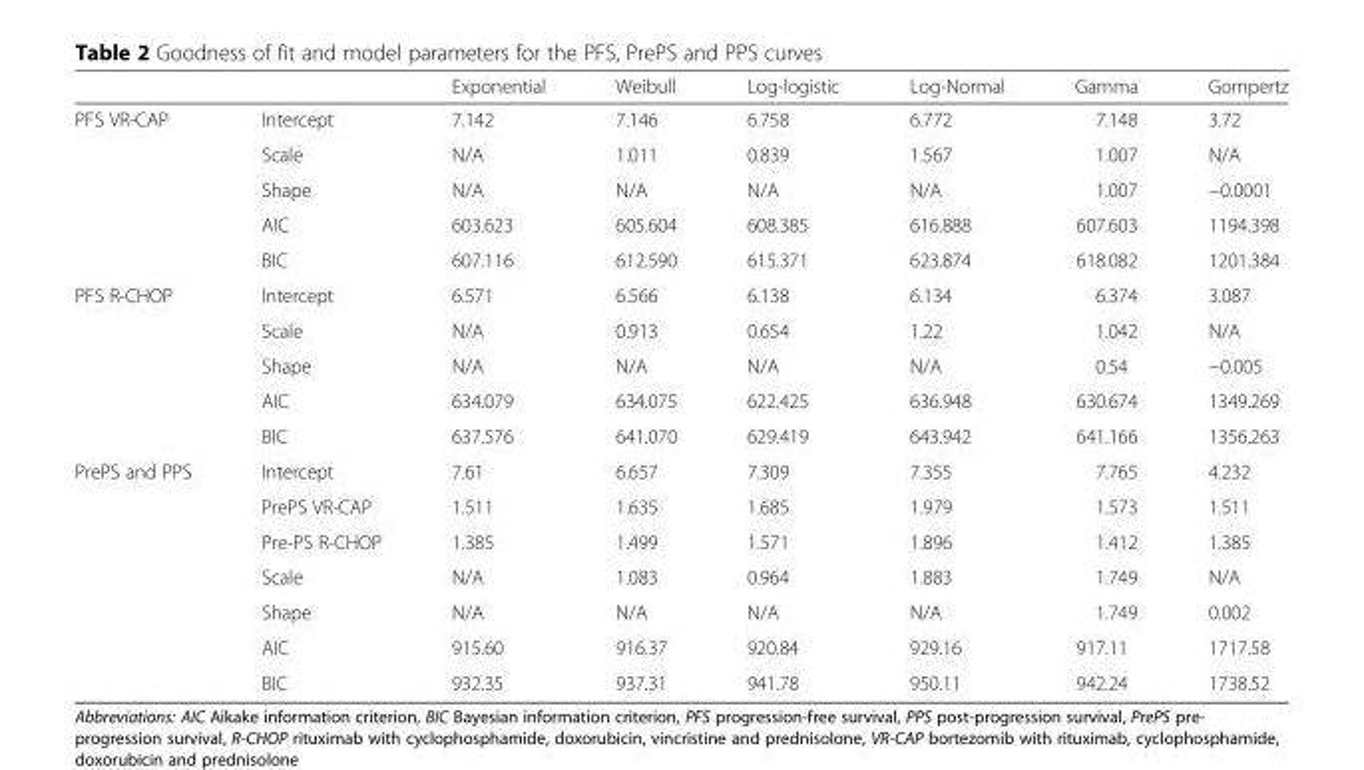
<table><thead><tr><td></td><td></td><td>Exponential</td><td>Weibull</td><td>Log-logistic</td><td>Log-Normal</td><td>Gamma</td><td>Gompertz</td></tr></thead><tbody><tr><td rowspan="5">PFS VR-CAP</td><td>Intercept</td><td>7.142</td><td>7.146</td><td>6.758</td><td>6.772</td><td>7.148</td><td>3.72</td></tr><tr><td>Scale</td><td>N/A</td><td>1.011</td><td>0.839</td><td>1.567</td><td>1.007</td><td>N/A</td></tr><tr><td>Shape</td><td>N/A</td><td>N/A</td><td>N/A</td><td>N/A</td><td>1.007</td><td>−0.0001</td></tr><tr><td>AIC</td><td>603.623</td><td>605.604</td><td>608.385</td><td>616.888</td><td>607.603</td><td>1194.398</td></tr><tr><td>BIC</td><td>607.116</td><td>612.590</td><td>615.371</td><td>623.874</td><td>618.082</td><td>1201.384</td></tr><tr><td rowspan="5">PFS R-CHOP</td><td>Intercept</td><td>6.571</td><td>6.566</td><td>6.138</td><td>6.134</td><td>6.374</td><td>3.087</td></tr><tr><td>Scale</td><td>N/A</td><td>0.913</td><td>0.654</td><td>1.22</td><td>1.042</td><td>N/A</td></tr><tr><td>Shape</td><td>N/A</td><td>N/A</td><td>N/A</td><td>N/A</td><td>0.54</td><td>−0.005</td></tr><tr><td>AIC</td><td>634.079</td><td>634.075</td><td>622.425</td><td>636.948</td><td>630.674</td><td>1349.269</td></tr><tr><td>BIC</td><td>637.576</td><td>641.070</td><td>629.419</td><td>643.942</td><td>641.166</td><td>1356.263</td></tr><tr><td rowspan="7">PrePS and PPS</td><td>Intercept</td><td>7.61</td><td>6.657</td><td>7.309</td><td>7.355</td><td>7.765</td><td>4.232</td></tr><tr><td>PrePS VR-CAP</td><td>1.511</td><td>1.635</td><td>1.685</td><td>1.979</td><td>1.573</td><td>1.511</td></tr><tr><td>Pre-PS R-CHOP</td><td>1.385</td><td>1.499</td><td>1.571</td><td>1.896</td><td>1.412</td><td>1.385</td></tr><tr><td>Scale</td><td>N/A</td><td>1.083</td><td>0.964</td><td>1.883</td><td>1.749</td><td>N/A</td></tr><tr><td>Shape</td><td>N/A</td><td>N/A</td><td>N/A</td><td>N/A</td><td>1.749</td><td>0.002</td></tr><tr><td>AIC</td><td>915.60</td><td>916.37</td><td>920.84</td><td>929.16</td><td>917.11</td><td>1717.58</td></tr><tr><td>BIC</td><td>932.35</td><td>937.31</td><td>941.78</td><td>950.11</td><td>942.24</td><td>1738.52</td></tr></tbody></table>